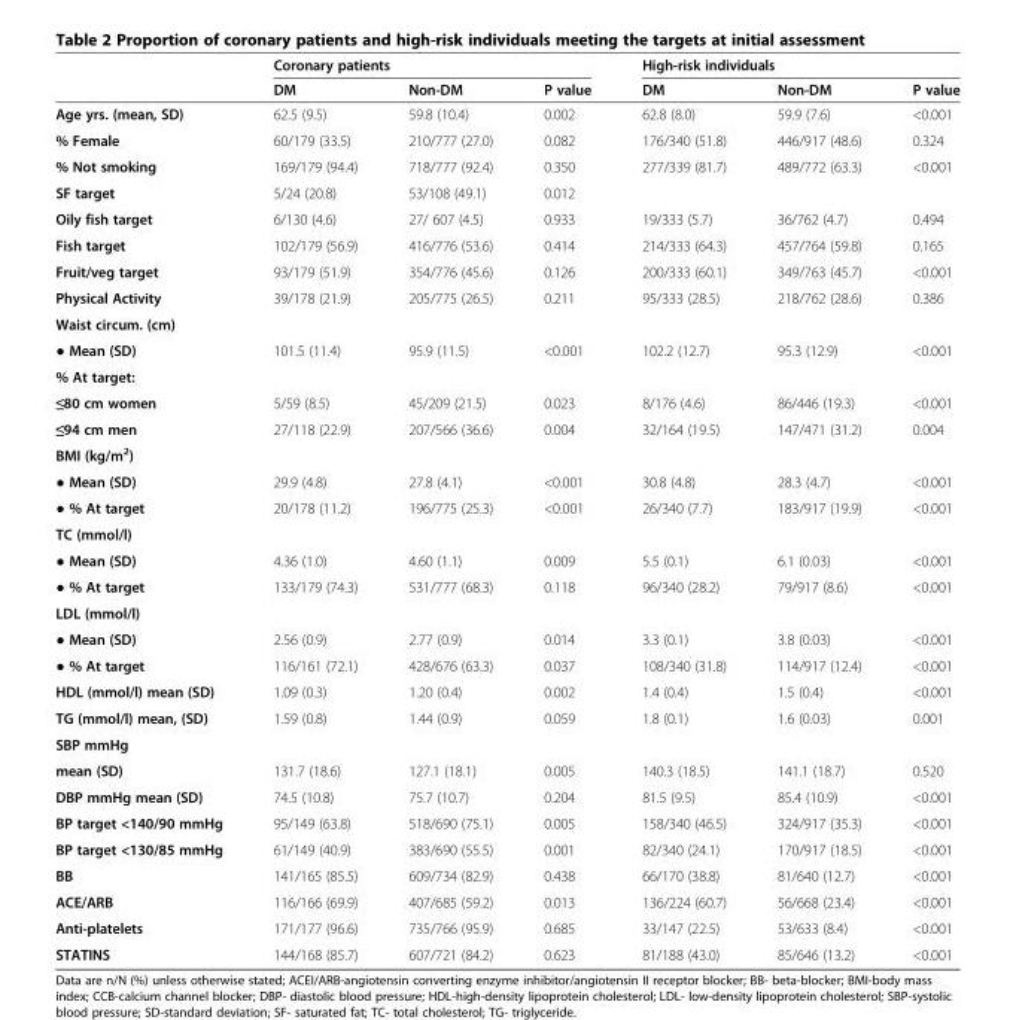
<table><thead><tr><td rowspan="2"></td><td colspan="3">Coronary patients</td><td colspan="3">High-risk individuals</td></tr><tr><td>DM</td><td>Non-DM</td><td>P value</td><td>DM</td><td>Non-DM</td><td>P value</td></tr></thead><tbody><tr><td>Age yrs. (mean, SD)</td><td>62.5 (9.5)</td><td>59.8 (10.4)</td><td>0.002</td><td>62.8 (8.0)</td><td>59.9 (7.6)</td><td>&lt;0.001</td></tr><tr><td>% Female</td><td>60/179 (33.5)</td><td>210/777 (27.0)</td><td>0.082</td><td>176/340 (51.8)</td><td>446/917 (48.6)</td><td>0.324</td></tr><tr><td>% Not smoking</td><td>169/179 (94.4)</td><td>718/777 (92.4)</td><td>0.350</td><td>277/339 (81.7)</td><td>489/772 (63.3)</td><td>&lt;0.001</td></tr><tr><td>SF target</td><td>5/24 (20.8)</td><td>53/108 (49.1)</td><td>0.012</td><td></td><td></td><td></td></tr><tr><td>Oily fish target</td><td>6/130 (4.6)</td><td>27/ 607 (4.5)</td><td>0.933</td><td>19/333 (5.7)</td><td>36/762 (4.7)</td><td>0.494</td></tr><tr><td>Fish target</td><td>102/179 (56.9)</td><td>416/776 (53.6)</td><td>0.414</td><td>214/333 (64.3)</td><td>457/764 (59.8)</td><td>0.165</td></tr><tr><td>Fruit/veg target</td><td>93/179 (51.9)</td><td>354/776 (45.6)</td><td>0.126</td><td>200/333 (60.1)</td><td>349/763 (45.7)</td><td>&lt;0.001</td></tr><tr><td>Physical Activity</td><td>39/178 (21.9)</td><td>205/775 (26.5)</td><td>0.211</td><td>95/333 (28.5)</td><td>218/762 (28.6)</td><td>0.386</td></tr><tr><td colspan="7">Waist circum. (cm)</td></tr><tr><td>● Mean (SD)</td><td>101.5 (11.4)</td><td>95.9 (11.5)</td><td>&lt;0.001</td><td>102.2 (12.7)</td><td>95.3 (12.9)</td><td>&lt;0.001</td></tr><tr><td colspan="7">% At target:</td></tr><tr><td>≤80 cm women</td><td>5/59 (8.5)</td><td>45/209 (21.5)</td><td>0.023</td><td>8/176 (4.6)</td><td>86/446 (19.3)</td><td>&lt;0.001</td></tr><tr><td>≤94 cm men</td><td>27/118 (22.9)</td><td>207/566 (36.6)</td><td>0.004</td><td>32/164 (19.5)</td><td>147/471 (31.2)</td><td>0.004</td></tr><tr><td colspan="7">BMI (kg/m<sup>2</sup>)</td></tr><tr><td>● Mean (SD)</td><td>29.9 (4.8)</td><td>27.8 (4.1)</td><td>&lt;0.001</td><td>30.8 (4.8)</td><td>28.3 (4.7)</td><td>&lt;0.001</td></tr><tr><td>● % At target</td><td>20/178 (11.2)</td><td>196/775 (25.3)</td><td>&lt;0.001</td><td>26/340 (7.7)</td><td>183/917 (19.9)</td><td>&lt;0.001</td></tr><tr><td colspan="7">TC (mmol/l)</td></tr><tr><td>● Mean (SD)</td><td>4.36 (1.0)</td><td>4.60 (1.1)</td><td>0.009</td><td>5.5 (0.1)</td><td>6.1 (0.03)</td><td>&lt;0.001</td></tr><tr><td>● % At target</td><td>133/179 (74.3)</td><td>531/777 (68.3)</td><td>0.118</td><td>96/340 (28.2)</td><td>79/917 (8.6)</td><td>&lt;0.001</td></tr><tr><td colspan="7">LDL (mmol/l)</td></tr><tr><td>● Mean (SD)</td><td>2.56 (0.9)</td><td>2.77 (0.9)</td><td>0.014</td><td>3.3 (0.1)</td><td>3.8 (0.03)</td><td>&lt;0.001</td></tr><tr><td>● % At target</td><td>116/161 (72.1)</td><td>428/676 (63.3)</td><td>0.037</td><td>108/340 (31.8)</td><td>114/917 (12.4)</td><td>&lt;0.001</td></tr><tr><td>HDL (mmol/l) mean (SD)</td><td>1.09 (0.3)</td><td>1.20 (0.4)</td><td>0.002</td><td>1.4 (0.4)</td><td>1.5 (0.4)</td><td>&lt;0.001</td></tr><tr><td>TG (mmol/l) mean, (SD)</td><td>1.59 (0.8)</td><td>1.44 (0.9)</td><td>0.059</td><td>1.8 (0.1)</td><td>1.6 (0.03)</td><td>0.001</td></tr><tr><td colspan="7">SBP mmHg</td></tr><tr><td>mean (SD)</td><td>131.7 (18.6)</td><td>127.1 (18.1)</td><td>0.005</td><td>140.3 (18.5)</td><td>141.1 (18.7)</td><td>0.520</td></tr><tr><td>DBP mmHg mean (SD)</td><td>74.5 (10.8)</td><td>75.7 (10.7)</td><td>0.204</td><td>81.5 (9.5)</td><td>85.4 (10.9)</td><td>&lt;0.001</td></tr><tr><td>BP target &lt;140/90 mmHg</td><td>95/149 (63.8)</td><td>518/690 (75.1)</td><td>0.005</td><td>158/340 (46.5)</td><td>324/917 (35.3)</td><td>&lt;0.001</td></tr><tr><td>BP target &lt;130/85 mmHg</td><td>61/149 (40.9)</td><td>383/690 (55.5)</td><td>0.001</td><td>82/340 (24.1)</td><td>170/917 (18.5)</td><td>&lt;0.001</td></tr><tr><td>BB</td><td>141/165 (85.5)</td><td>609/734 (82.9)</td><td>0.438</td><td>66/170 (38.8)</td><td>81/640 (12.7)</td><td>&lt;0.001</td></tr><tr><td>ACE/ARB</td><td>116/166 (69.9)</td><td>407/685 (59.2)</td><td>0.013</td><td>136/224 (60.7)</td><td>56/668 (23.4)</td><td>&lt;0.001</td></tr><tr><td>Anti-platelets</td><td>171/177 (96.6)</td><td>735/766 (95.9)</td><td>0.685</td><td>33/147 (22.5)</td><td>53/633 (8.4)</td><td>&lt;0.001</td></tr><tr><td>STATINS</td><td>144/168 (85.7)</td><td>607/721 (84.2)</td><td>0.623</td><td>81/188 (43.0)</td><td>85/646 (13.2)</td><td>&lt;0.001</td></tr></tbody></table>